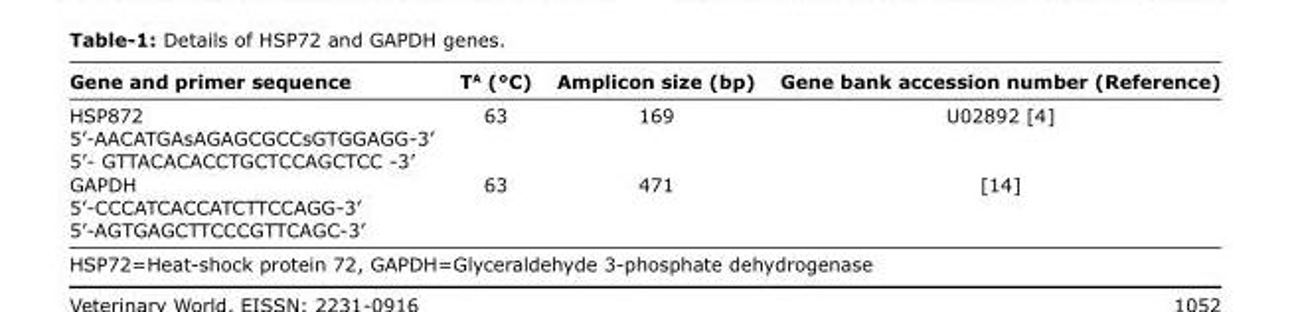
<table><thead><tr><td>Gene and primer sequence</td><td>T<sup>A</sup> (°C)</td><td>Amplicon size (bp)</td><td>Gene bank accession number (Reference)</td></tr></thead><tbody><tr><td>HSP872 5’-AACATGAsAGAGCGCCsGTGGAGG-3’ 5’- GTTACACACCTGCTCCAGCTCC -3’</td><td>63</td><td>169</td><td>U02892 [4]</td></tr><tr><td>GAPDH 5’-CCCATCACCATCTTCCAGG-3’ 5’-AGTGAGCTTCCCGTTCAGC-3’</td><td>63</td><td>471</td><td>[14]</td></tr></tbody></table>